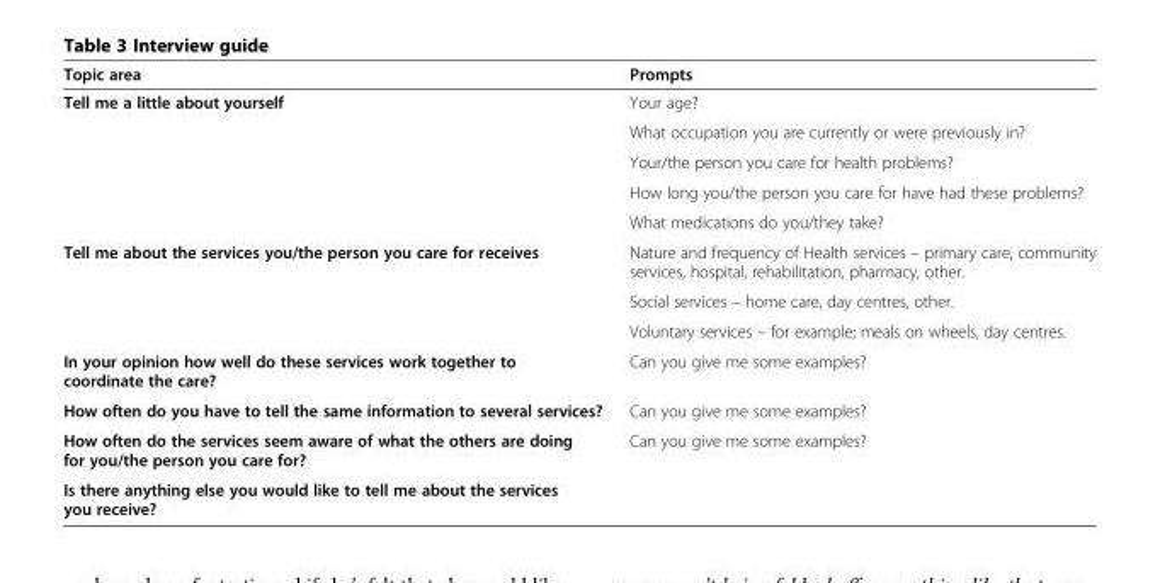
<table><thead><tr><td>Topic area</td><td>Prompts</td></tr></thead><tbody><tr><td rowspan="5">Tell me a little about yourself</td><td>Your age?</td></tr><tr><td>What occupation you are currently or were previously in?</td></tr><tr><td>Your/the person you care for health problems?</td></tr><tr><td>How long you/the person you care for have had these problems?</td></tr><tr><td>What medications do you/they take?</td></tr><tr><td rowspan="3">Tell me about the services you/the person you care for receives</td><td>Nature and frequency of Health services – primary care, community services, hospital, rehabilitation, pharmacy, other.</td></tr><tr><td>Social services – home care, day centres, other.</td></tr><tr><td>Voluntary services – for example; meals on wheels, day centres.</td></tr><tr><td>In your opinion how well do these services work together to coordinate the care?</td><td>Can you give me some examples?</td></tr><tr><td>How often do you have to tell the same information to several services?</td><td>Can you give me some examples?</td></tr><tr><td>How often do the services seem aware of what the others are doing for you/the person you care for?</td><td>Can you give me some examples?</td></tr><tr><td>Is there anything else you would like to tell me about the services you receive?</td><td></td></tr></tbody></table>